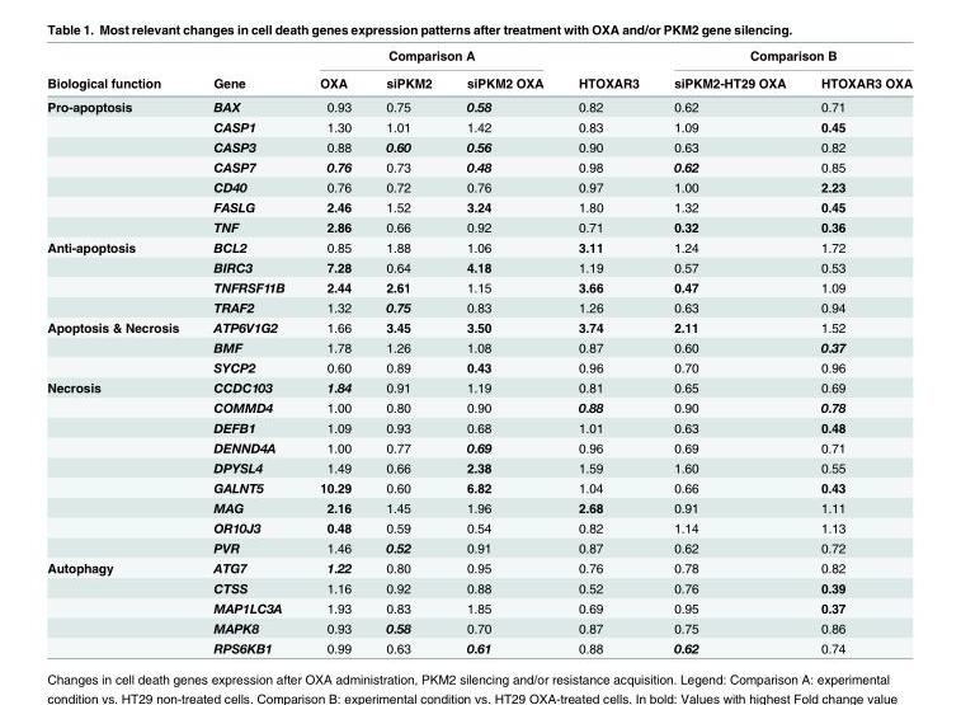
<table><thead><tr><td rowspan="2">Biological function</td><td rowspan="2">Gene</td><td colspan="3">Comparison A</td><td rowspan="2">HTOXAR3</td><td colspan="2">Comparison B</td></tr><tr><td>OXA</td><td>siPKM2</td><td>siPKM2 OXA</td><td>siPKM2-HT29 OXA</td><td>HTOXAR3 OXA</td></tr></thead><tbody><tr><td rowspan="7">Pro-apoptosis</td><td>BAX</td><td>0.93</td><td>0.75</td><td>0.58</td><td>0.82</td><td>0.62</td><td>0.71</td></tr><tr><td>CASP1</td><td>1.30</td><td>1.01</td><td>1.42</td><td>0.83</td><td>1.09</td><td>0.45</td></tr><tr><td>CASP3</td><td>0.88</td><td>0.60</td><td>0.56</td><td>0.90</td><td>0.63</td><td>0.82</td></tr><tr><td>CASP7</td><td>0.76</td><td>0.73</td><td>0.48</td><td>0.98</td><td>0.62</td><td>0.85</td></tr><tr><td>CD40</td><td>0.76</td><td>0.72</td><td>0.76</td><td>0.97</td><td>1.00</td><td>2.23</td></tr><tr><td>FASLG</td><td>2.46</td><td>1.52</td><td>3.24</td><td>1.80</td><td>1.32</td><td>0.45</td></tr><tr><td>TNF</td><td>2.86</td><td>0.66</td><td>0.92</td><td>0.71</td><td>0.32</td><td>0.36</td></tr><tr><td rowspan="4">Anti-apoptosis</td><td>BCL2</td><td>0.85</td><td>1.88</td><td>1.06</td><td>3.11</td><td>1.24</td><td>1.72</td></tr><tr><td>BIRC3</td><td>7.28</td><td>0.64</td><td>4.18</td><td>1.19</td><td>0.57</td><td>0.53</td></tr><tr><td>TNFRSF11B</td><td>2.44</td><td>2.61</td><td>1.15</td><td>3.66</td><td>0.47</td><td>1.09</td></tr><tr><td>TRAF2</td><td>1.32</td><td>0.75</td><td>0.83</td><td>1.26</td><td>0.63</td><td>0.94</td></tr><tr><td rowspan="3">Apoptosis &amp; Necrosis</td><td>ATP6V1G2</td><td>1.66</td><td>3.45</td><td>3.50</td><td>3.74</td><td>2.11</td><td>1.52</td></tr><tr><td>BMF</td><td>1.78</td><td>1.26</td><td>1.08</td><td>0.87</td><td>0.60</td><td>0.37</td></tr><tr><td>SYCP2</td><td>0.60</td><td>0.89</td><td>0.43</td><td>0.96</td><td>0.70</td><td>0.96</td></tr><tr><td rowspan="9">Necrosis</td><td>CCDC103</td><td>1.84</td><td>0.91</td><td>1.19</td><td>0.81</td><td>0.65</td><td>0.69</td></tr><tr><td>COMMD4</td><td>1.00</td><td>0.80</td><td>0.90</td><td>0.88</td><td>0.90</td><td>0.78</td></tr><tr><td>DEFB1</td><td>1.09</td><td>0.93</td><td>0.68</td><td>1.01</td><td>0.63</td><td>0.48</td></tr><tr><td>DENND4A</td><td>1.00</td><td>0.77</td><td>0.69</td><td>0.96</td><td>0.69</td><td>0.71</td></tr><tr><td>DPYSL4</td><td>1.49</td><td>0.66</td><td>2.38</td><td>1.59</td><td>1.60</td><td>0.55</td></tr><tr><td>GALNT5</td><td>10.29</td><td>0.60</td><td>6.82</td><td>1.04</td><td>0.66</td><td>0.43</td></tr><tr><td>MAG</td><td>2.16</td><td>1.45</td><td>1.96</td><td>2.68</td><td>0.91</td><td>1.11</td></tr><tr><td>OR10J3</td><td>0.48</td><td>0.59</td><td>0.54</td><td>0.82</td><td>1.14</td><td>1.13</td></tr><tr><td>PVR</td><td>1.46</td><td>0.52</td><td>0.91</td><td>0.87</td><td>0.62</td><td>0.72</td></tr><tr><td rowspan="5">Autophagy</td><td>ATG7</td><td>1.22</td><td>0.80</td><td>0.95</td><td>0.76</td><td>0.78</td><td>0.82</td></tr><tr><td>CTSS</td><td>1.16</td><td>0.92</td><td>0.88</td><td>0.52</td><td>0.76</td><td>0.39</td></tr><tr><td>MAP1LC3A</td><td>1.93</td><td>0.83</td><td>1.85</td><td>0.69</td><td>0.95</td><td>0.37</td></tr><tr><td>MAPK8</td><td>0.93</td><td>0.58</td><td>0.70</td><td>0.87</td><td>0.75</td><td>0.86</td></tr><tr><td>RPS6KB1</td><td>0.99</td><td>0.63</td><td>0.61</td><td>0.88</td><td>0.62</td><td>0.74</td></tr></tbody></table>